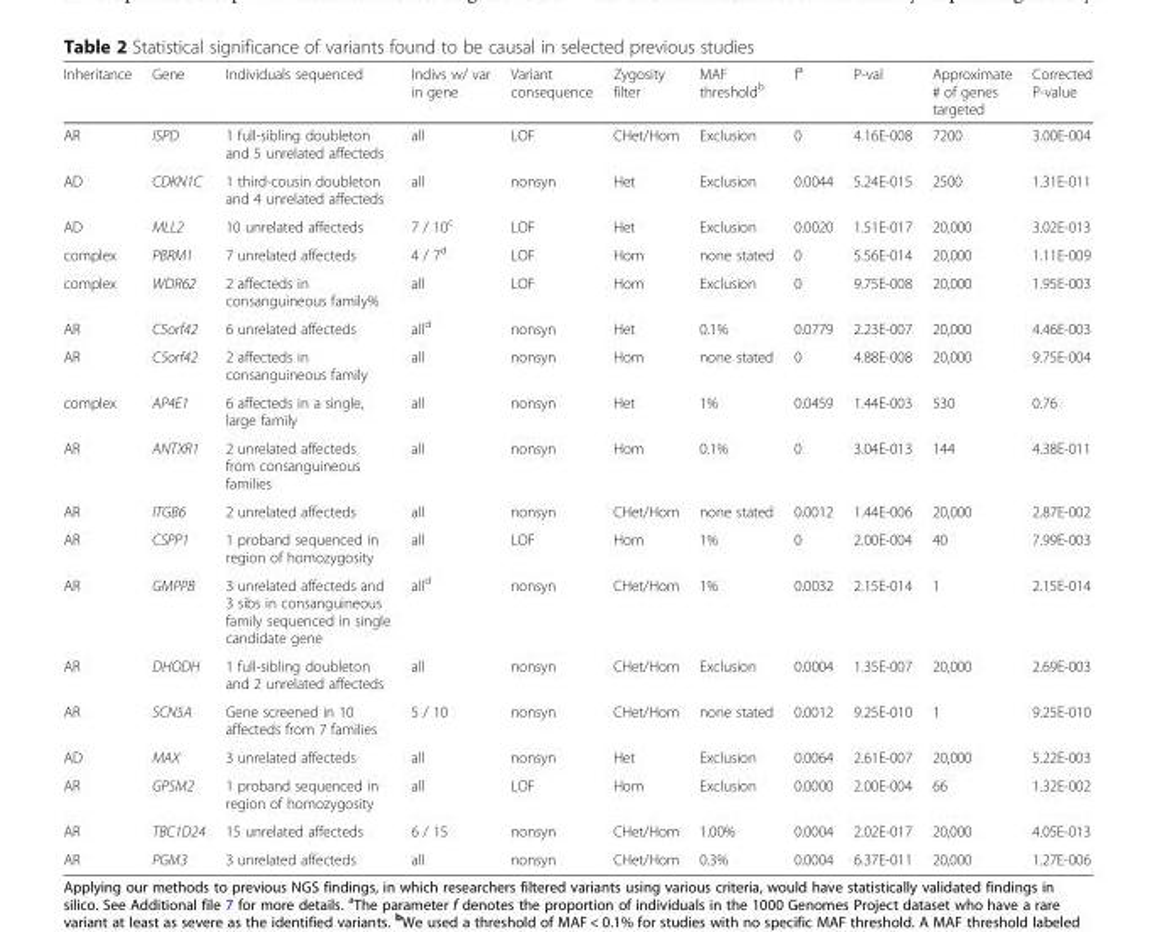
<table><thead><tr><td>Inheritance</td><td>Gene</td><td>Individuals sequenced</td><td>Indivs w/ var in gene</td><td>Variant consequence</td><td>Zygosity filter</td><td>MAF threshold<sup>b</sup></td><td>f<sup>a</sup></td><td>P-val</td><td>Approximate # of genes targeted</td><td>Corrected P-value</td></tr></thead><tbody><tr><td>AR</td><td>ISPD</td><td>1 full-sibling doubleton and 5 unrelated affecteds</td><td>all</td><td>LOF</td><td>CHet/Hom</td><td>Exclusion</td><td>0</td><td>4.16E-008</td><td>7200</td><td>3.00E-004</td></tr><tr><td>AD</td><td>CDKN1C</td><td>1 third-cousin doubleton and 4 unrelated affecteds</td><td>all</td><td>nonsyn</td><td>Het</td><td>Exclusion</td><td>0.0044</td><td>5.24E-015</td><td>2500</td><td>1.31E-011</td></tr><tr><td>AD</td><td>MLL2</td><td>10 unrelated affecteds</td><td>7 / 10<sup>c</sup></td><td>LOF</td><td>Het</td><td>Exclusion</td><td>0.0020</td><td>1.51E-017</td><td>20,000</td><td>3.02E-013</td></tr><tr><td>complex</td><td>PBRM1</td><td>7 unrelated affecteds</td><td>4 / 7<sup>d</sup></td><td>LOF</td><td>Hom</td><td>none stated</td><td>0</td><td>5.56E-014</td><td>20,000</td><td>1.11E-009</td></tr><tr><td>complex</td><td>WDR62</td><td>2 affecteds in consanguineous family%</td><td>all</td><td>LOF</td><td>Hom</td><td>Exclusion</td><td>0</td><td>9.75E-008</td><td>20,000</td><td>1.95E-003</td></tr><tr><td>AR</td><td>C5orf42</td><td>6 unrelated affecteds</td><td>all<sup>d</sup></td><td>nonsyn</td><td>Het</td><td>0.1%</td><td>0.0779</td><td>2.23E-007</td><td>20,000</td><td>4.46E-003</td></tr><tr><td>AR</td><td>C5orf42</td><td>2 affecteds in consanguineous family</td><td>all</td><td>nonsyn</td><td>Hom</td><td>none stated</td><td>0</td><td>4.88E-008</td><td>20,000</td><td>9.75E-004</td></tr><tr><td>complex</td><td>AP4E1</td><td>6 affecteds in a single, large family</td><td>all</td><td>nonsyn</td><td>Het</td><td>1%</td><td>0.0459</td><td>1.44E-003</td><td>530</td><td>0.76</td></tr><tr><td>AR</td><td>ANTXR1</td><td>2 unrelated affecteds from consanguineous families</td><td>all</td><td>nonsyn</td><td>Hom</td><td>0.1%</td><td>0</td><td>3.04E-013</td><td>144</td><td>4.38E-011</td></tr><tr><td>AR</td><td>ITGB6</td><td>2 unrelated affecteds</td><td>all</td><td>nonsyn</td><td>CHet/Hom</td><td>none stated</td><td>0.0012</td><td>1.44E-006</td><td>20,000</td><td>2.87E-002</td></tr><tr><td>AR</td><td>CSPP1</td><td>1 proband sequenced in region of homozygosity</td><td>all</td><td>LOF</td><td>Hom</td><td>1%</td><td>0</td><td>2.00E-004</td><td>40</td><td>7.99E-003</td></tr><tr><td>AR</td><td>GMPPB</td><td>3 unrelated affecteds and 3 sibs in consanguineous family sequenced in single candidate gene</td><td>all<sup>d</sup></td><td>nonsyn</td><td>CHet/Hom</td><td>1%</td><td>0.0032</td><td>2.15E-014</td><td>1</td><td>2.15E-014</td></tr><tr><td>AR</td><td>DHODH</td><td>1 full-sibling doubleton and 2 unrelated affecteds</td><td>all</td><td>nonsyn</td><td>CHet/Hom</td><td>Exclusion</td><td>0.0004</td><td>1.35E-007</td><td>20,000</td><td>2.69E-003</td></tr><tr><td>AR</td><td>SCN5A</td><td>Gene screened in 10 affecteds from 7 families</td><td>5 / 10</td><td>nonsyn</td><td>CHet/Hom</td><td>none stated</td><td>0.0012</td><td>9.25E-010</td><td>1</td><td>9.25E-010</td></tr><tr><td>AD</td><td>MAX</td><td>3 unrelated affecteds</td><td>all</td><td>nonsyn</td><td>Het</td><td>Exclusion</td><td>0.0064</td><td>2.61E-007</td><td>20,000</td><td>5.22E-003</td></tr><tr><td>AR</td><td>GPSM2</td><td>1 proband sequenced in region of homozygosity</td><td>all</td><td>LOF</td><td>Hom</td><td>Exclusion</td><td>0.0000</td><td>2.00E-004</td><td>66</td><td>1.32E-002</td></tr><tr><td>AR</td><td>TBC1D24</td><td>15 unrelated affecteds</td><td>6 / 15</td><td>nonsyn</td><td>CHet/Hom</td><td>1.00%</td><td>0.0004</td><td>2.02E-017</td><td>20,000</td><td>4.05E-013</td></tr><tr><td>AR</td><td>PGM3</td><td>3 unrelated affecteds</td><td>all</td><td>nonsyn</td><td>CHet/Hom</td><td>0.3%</td><td>0.0004</td><td>6.37E-011</td><td>20,000</td><td>1.27E-006</td></tr></tbody></table>